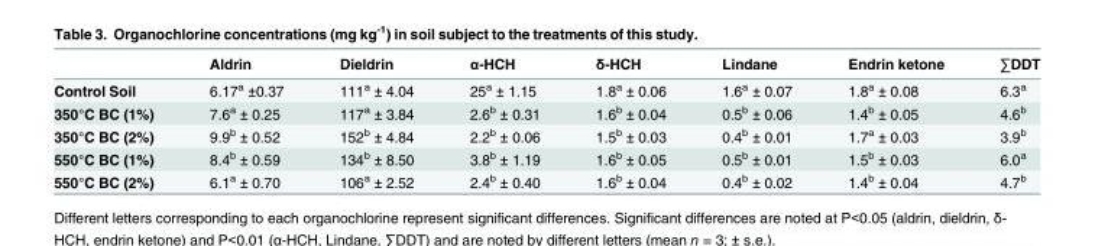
<table><thead><tr><td></td><td>Aldrin</td><td>Dieldrin</td><td>α-HCH</td><td>δ-HCH</td><td>Lindane</td><td>Endrin ketone</td><td>∑DDT</td></tr></thead><tbody><tr><td>Control Soil</td><td>6.17<sup>a</sup> ±0.37</td><td>111<sup>a</sup> ± 4.04</td><td>25<sup>a</sup> ± 1.15</td><td>1.8<sup>a</sup> ± 0.06</td><td>1.6<sup>a</sup> ± 0.07</td><td>1.8<sup>a</sup> ± 0.08</td><td>6.3<sup>a</sup></td></tr><tr><td>350°C BC (1%)</td><td>7.6<sup>a</sup> ± 0.25</td><td>117<sup>a</sup> ± 3.84</td><td>2.6<sup>b</sup> ± 0.31</td><td>1.6<sup>b</sup> ± 0.04</td><td>0.5<sup>b</sup> ± 0.06</td><td>1.4<sup>b</sup> ± 0.05</td><td>4.6<sup>b</sup></td></tr><tr><td>350°C BC (2%)</td><td>9.9<sup>b</sup> ± 0.52</td><td>152<sup>b</sup> ± 4.84</td><td>2.2<sup>b</sup> ± 0.06</td><td>1.5<sup>b</sup> ± 0.03</td><td>0.4<sup>b</sup> ± 0.01</td><td>1.7<sup>a</sup> ± 0.03</td><td>3.9<sup>b</sup></td></tr><tr><td>550°C BC (1%)</td><td>8.4<sup>b</sup> ± 0.59</td><td>134<sup>b</sup> ± 8.50</td><td>3.8<sup>b</sup> ± 1.19</td><td>1.6<sup>b</sup> ± 0.05</td><td>0.5<sup>b</sup> ± 0.01</td><td>1.5<sup>b</sup> ± 0.03</td><td>6.0<sup>a</sup></td></tr><tr><td>550°C BC (2%)</td><td>6.1<sup>a</sup> ± 0.70</td><td>106<sup>a</sup> ± 2.52</td><td>2.4<sup>b</sup> ± 0.40</td><td>1.6<sup>b</sup> ± 0.04</td><td>0.4<sup>b</sup> ± 0.02</td><td>1.4<sup>b</sup> ± 0.04</td><td>4.7<sup>b</sup></td></tr></tbody></table>